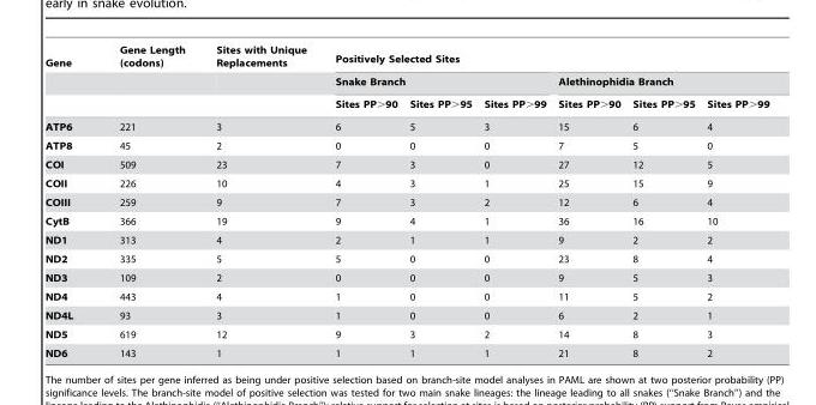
<table><thead><tr><td rowspan="3">Gene</td><td rowspan="3">Gene Length (codons)</td><td rowspan="3">Sites with Unique Replacements</td><td colspan="6">Positively Selected Sites</td></tr><tr><td colspan="3">Snake Branch</td><td colspan="3">Alethinophidia Branch</td></tr><tr><td>Sites PP&gt;90</td><td>Sites PP&gt;95</td><td>Sites PP&gt;99</td><td>Sites PP&gt;90</td><td>Sites PP&gt;95</td><td>Sites PP&gt;99</td></tr></thead><tbody><tr><td>ATP6</td><td>221</td><td>3</td><td>6</td><td>5</td><td>3</td><td>15</td><td>6</td><td>4</td></tr><tr><td>ATP8</td><td>45</td><td>2</td><td>0</td><td>0</td><td>0</td><td>7</td><td>5</td><td>0</td></tr><tr><td>COI</td><td>509</td><td>23</td><td>7</td><td>3</td><td>0</td><td>27</td><td>12</td><td>5</td></tr><tr><td>COII</td><td>226</td><td>10</td><td>4</td><td>3</td><td>1</td><td>25</td><td>15</td><td>9</td></tr><tr><td>COIII</td><td>259</td><td>9</td><td>7</td><td>3</td><td>2</td><td>12</td><td>6</td><td>4</td></tr><tr><td>CytB</td><td>366</td><td>19</td><td>9</td><td>4</td><td>1</td><td>36</td><td>16</td><td>10</td></tr><tr><td>ND1</td><td>313</td><td>4</td><td>2</td><td>1</td><td>1</td><td>9</td><td>2</td><td>2</td></tr><tr><td>ND2</td><td>335</td><td>5</td><td>5</td><td>0</td><td>0</td><td>23</td><td>8</td><td>4</td></tr><tr><td>ND3</td><td>109</td><td>2</td><td>0</td><td>0</td><td>0</td><td>9</td><td>5</td><td>3</td></tr><tr><td>ND4</td><td>443</td><td>4</td><td>1</td><td>0</td><td>0</td><td>11</td><td>5</td><td>2</td></tr><tr><td>ND4L</td><td>93</td><td>3</td><td>1</td><td>0</td><td>0</td><td>6</td><td>2</td><td>1</td></tr><tr><td>ND5</td><td>619</td><td>12</td><td>9</td><td>3</td><td>2</td><td>14</td><td>8</td><td>3</td></tr><tr><td>ND6</td><td>143</td><td>1</td><td>1</td><td>1</td><td>1</td><td>21</td><td>8</td><td>2</td></tr></tbody></table>